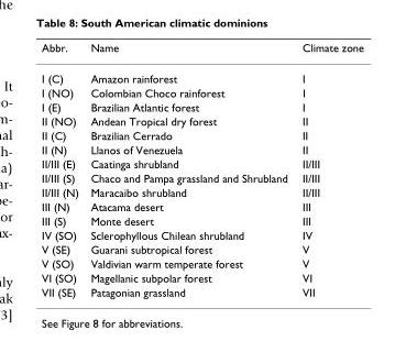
<table><thead><tr><td>Abbr.</td><td>Name</td><td>Climate zone</td></tr></thead><tbody><tr><td>I (C)</td><td>Amazon rainforest</td><td>I</td></tr><tr><td>I (NO)</td><td>Colombian Choco rainforest</td><td>I</td></tr><tr><td>I (E)</td><td>Brazilian Atlantic forest</td><td>I</td></tr><tr><td>II (NO)</td><td>Andean Tropical dry forest</td><td>II</td></tr><tr><td>II (C)</td><td>Brazilian Cerrado</td><td>II</td></tr><tr><td>II (N)</td><td>Llanos of Venezuela</td><td>II</td></tr><tr><td>II/III (E)</td><td>Caatinga shrubland</td><td>II/III</td></tr><tr><td>II/III (S)</td><td>Chaco and Pampa grassland and Shrubland</td><td>II/III</td></tr><tr><td>II/III (N)</td><td>Maracaibo shrubland</td><td>II/III</td></tr><tr><td>III (N)</td><td>Atacama desert</td><td>III</td></tr><tr><td>III (S)</td><td>Monte desert</td><td>III</td></tr><tr><td>IV (SO)</td><td>Sclerophyllous Chilean shrubland</td><td>IV</td></tr><tr><td>V (SE)</td><td>Guarani subtropical forest</td><td>V</td></tr><tr><td>V (SO)</td><td>Valdivian warm temperate forest</td><td>V</td></tr><tr><td>VI (SO)</td><td>Magellanic subpolar forest</td><td>VI</td></tr><tr><td>VII (SE)</td><td>Patagonian grassland</td><td>VII</td></tr></tbody></table>